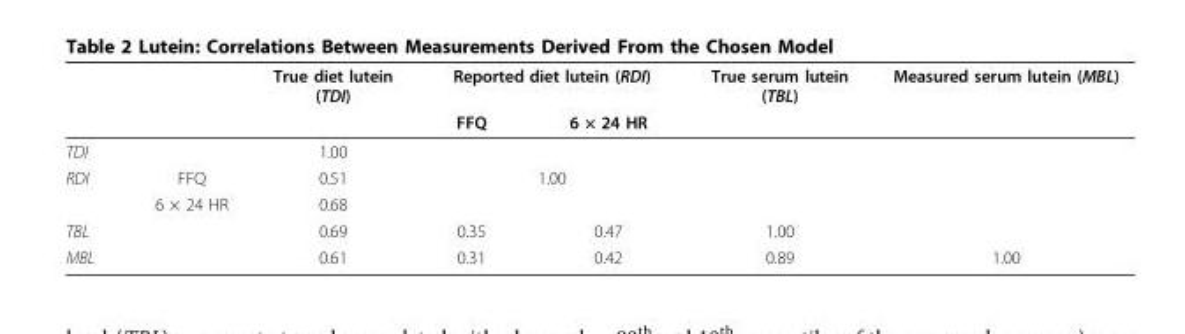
<table><thead><tr><td rowspan="2"></td><td rowspan="2"></td><td rowspan="2">True diet lutein (TDI)</td><td colspan="2">Reported diet lutein (RDI)</td><td rowspan="2">True serum lutein (TBL)</td><td rowspan="2">Measured serum lutein (MBL)</td></tr><tr><td>FFQ</td><td>6 × 24 HR</td></tr></thead><tbody><tr><td>TDI</td><td></td><td>1.00</td><td></td><td></td><td></td><td></td></tr><tr><td rowspan="2">RDI</td><td>FFQ</td><td>0.51</td><td colspan="2">1.00</td><td></td><td></td></tr><tr><td>6 × 24 HR</td><td>0.68</td><td></td><td></td><td></td><td></td></tr><tr><td>TBL</td><td></td><td>0.69</td><td>0.35</td><td>0.47</td><td>1.00</td><td></td></tr><tr><td>MBL</td><td></td><td>0.61</td><td>0.31</td><td>0.42</td><td>0.89</td><td>1.00</td></tr></tbody></table>